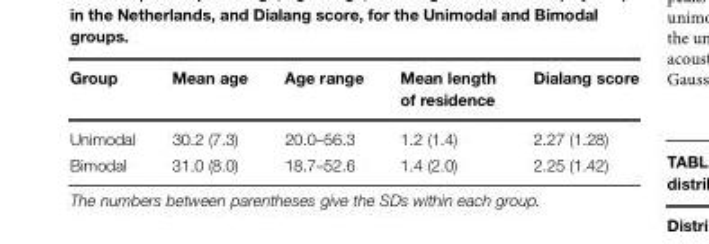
<table><thead><tr><td>Group</td><td>Mean age</td><td>Age range</td><td>Mean length of residence</td><td>Dialang score</td></tr></thead><tbody><tr><td>Unimodal</td><td>30.2 (7.3)</td><td>20.0–56.3</td><td>1.2 (1.4)</td><td>2.27 (1.28)</td></tr><tr><td>Bimodal</td><td>31.0 (8.0)</td><td>18.7–52.6</td><td>1.4 (2.0)</td><td>2.25 (1.42)</td></tr></tbody></table>